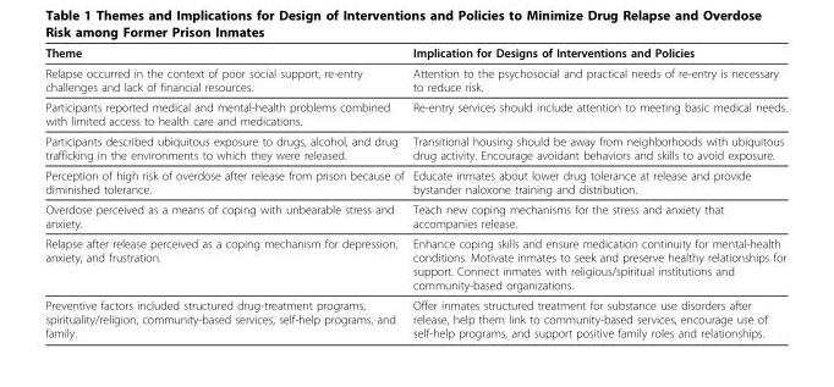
<table><thead><tr><td>Theme</td><td>Implication for Designs of Interventions and Policies</td></tr></thead><tbody><tr><td>Relapse occurred in the context of poor social support, re-entry challenges and lack of financial resources.</td><td>Attention to the psychosocial and practical needs of re-entry is necessary to reduce risk.</td></tr><tr><td>Participants reported medical and mental-health problems combined with limited access to health care and medications.</td><td>Re-entry services should include attention to meeting basic medical needs.</td></tr><tr><td>Participants described ubiquitous exposure to drugs, alcohol, and drug trafficking in the environments to which they were released.</td><td>Transitional housing should be away from neighborhoods with ubiquitous drug activity. Encourage avoidant behaviors and skills to avoid exposure.</td></tr><tr><td>Perception of high risk of overdose after release from prison because of diminished tolerance.</td><td>Educate inmates about lower drug tolerance at release and provide bystander naloxone training and distribution.</td></tr><tr><td>Overdose perceived as a means of coping with unbearable stress and anxiety.</td><td>Teach new coping mechanisms for the stress and anxiety that accompanies release.</td></tr><tr><td>Relapse after release perceived as a coping mechanism for depression, anxiety, and frustration.</td><td>Enhance coping skills and ensure medication continuity for mental-health conditions. Motivate inmates to seek and preserve healthy relationships for support. Connect inmates with religious/spiritual institutions and community-based organizations.</td></tr><tr><td>Preventive factors included structured drug-treatment programs, spirituality/religion, community-based services, self-help programs, and family.</td><td>Offer inmates structured treatment for substance use disorders after release, help them link to community-based services, encourage use of self-help programs, and support positive family roles and relationships.</td></tr></tbody></table>